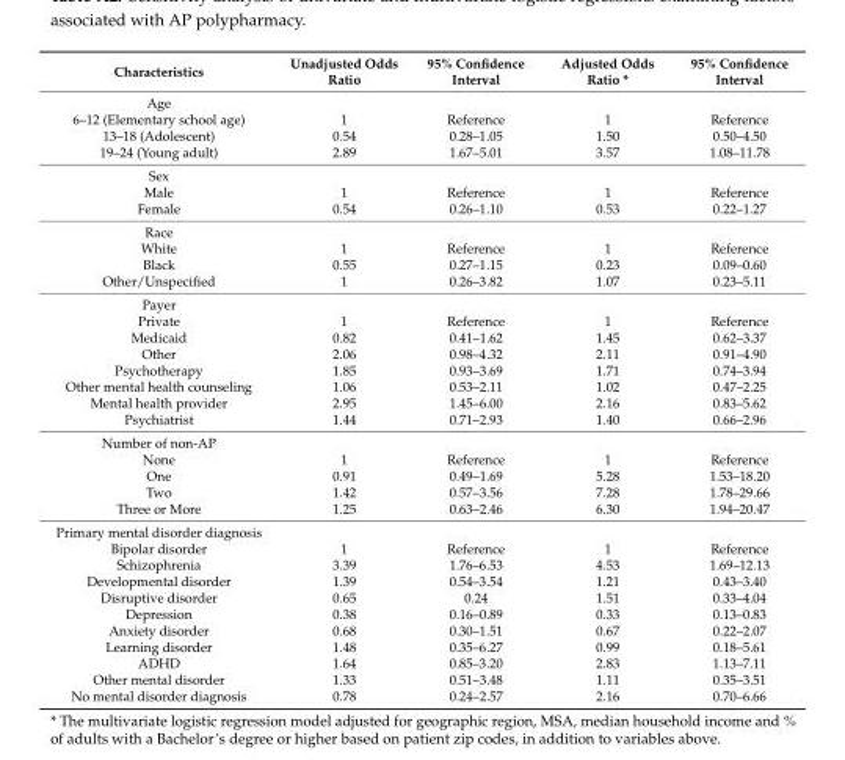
<table><thead><tr><td>Characteristics</td><td>Unadjusted Odds Ratio</td><td>95% Confidence Interval</td><td>Adjusted Odds Ratio *</td><td>95% Confidence Interval</td></tr></thead><tbody><tr><td colspan="5">Age</td></tr><tr><td>6–12 (Elementary school age)</td><td>1</td><td>Reference</td><td>1</td><td>Reference</td></tr><tr><td>13–18 (Adolescent)</td><td>0.54</td><td>0.28–1.05</td><td>1.50</td><td>0.50–4.50</td></tr><tr><td>19–24 (Young adult)</td><td>2.89</td><td>1.67–5.01</td><td>3.57</td><td>1.08–11.78</td></tr><tr><td colspan="5">Sex</td></tr><tr><td>Male</td><td>1</td><td>Reference</td><td>1</td><td>Reference</td></tr><tr><td>Female</td><td>0.54</td><td>0.26–1.10</td><td>0.53</td><td>0.22–1.27</td></tr><tr><td colspan="5">Race</td></tr><tr><td>White</td><td>1</td><td>Reference</td><td>1</td><td>Reference</td></tr><tr><td>Black</td><td>0.55</td><td>0.27–1.15</td><td>0.23</td><td>0.09–0.60</td></tr><tr><td>Other/Unspecified</td><td>1</td><td>0.26–3.82</td><td>1.07</td><td>0.23–5.11</td></tr><tr><td colspan="5">Payer</td></tr><tr><td>Private</td><td>1</td><td>Reference</td><td>1</td><td>Reference</td></tr><tr><td>Medicaid</td><td>0.82</td><td>0.41–1.62</td><td>1.45</td><td>0.62–3.37</td></tr><tr><td>Other</td><td>2.06</td><td>0.98–4.32</td><td>2.11</td><td>0.91–4.90</td></tr><tr><td>Psychotherapy</td><td>1.85</td><td>0.93–3.69</td><td>1.71</td><td>0.74–3.94</td></tr><tr><td>Other mental health counseling</td><td>1.06</td><td>0.53–2.11</td><td>1.02</td><td>0.47–2.25</td></tr><tr><td>Mental health provider</td><td>2.95</td><td>1.45–6.00</td><td>2.16</td><td>0.83–5.62</td></tr><tr><td>Psychiatrist</td><td>1.44</td><td>0.71–2.93</td><td>1.40</td><td>0.66–2.96</td></tr><tr><td colspan="5">Number of non-AP</td></tr><tr><td>None</td><td>1</td><td>Reference</td><td>1</td><td>Reference</td></tr><tr><td>One</td><td>0.91</td><td>0.49–1.69</td><td>5.28</td><td>1.53–18.20</td></tr><tr><td>Two</td><td>1.42</td><td>0.57–3.56</td><td>7.28</td><td>1.78–29.66</td></tr><tr><td>Three or More</td><td>1.25</td><td>0.63–2.46</td><td>6.30</td><td>1.94–20.47</td></tr><tr><td colspan="5">Primary mental disorder diagnosis</td></tr><tr><td>Bipolar disorder</td><td>1</td><td>Reference</td><td>1</td><td>Reference</td></tr><tr><td>Schizophrenia</td><td>3.39</td><td>1.76–6.53</td><td>4.53</td><td>1.69–12.13</td></tr><tr><td>Developmental disorder</td><td>1.39</td><td>0.54–3.54</td><td>1.21</td><td>0.43–3.40</td></tr><tr><td>Disruptive disorder</td><td>0.65</td><td>0.24</td><td>1.51</td><td>0.33–4.04</td></tr><tr><td>Depression</td><td>0.38</td><td>0.16–0.89</td><td>0.33</td><td>0.13–0.83</td></tr><tr><td>Anxiety disorder</td><td>0.68</td><td>0.30–1.51</td><td>0.67</td><td>0.22–2.07</td></tr><tr><td>Learning disorder</td><td>1.48</td><td>0.35–6.27</td><td>0.99</td><td>0.18–5.61</td></tr><tr><td>ADHD</td><td>1.64</td><td>0.85–3.20</td><td>2.83</td><td>1.13–7.11</td></tr><tr><td>Other mental disorder</td><td>1.33</td><td>0.51–3.48</td><td>1.11</td><td>0.35–3.51</td></tr><tr><td>No mental disorder diagnosis</td><td>0.78</td><td>0.24–2.57</td><td>2.16</td><td>0.70–6.66</td></tr></tbody></table>